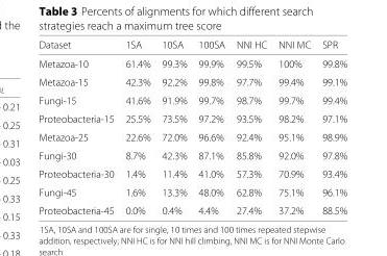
<table><thead><tr><td>Dataset</td><td>1SA</td><td>10SA</td><td>100SA</td><td>NNI HC</td><td>NNI MC</td><td>SPR</td></tr></thead><tbody><tr><td>Metazoa-10</td><td>61.4%</td><td>99.3%</td><td>99.9%</td><td>99.5%</td><td>100%</td><td>99.8%</td></tr><tr><td>Metazoa-15</td><td>42.3%</td><td>92.2%</td><td>99.8%</td><td>97.7%</td><td>99.4%</td><td>99.1%</td></tr><tr><td>Fungi-15</td><td>41.6%</td><td>91.9%</td><td>99.7%</td><td>98.7%</td><td>99.7%</td><td>99.4%</td></tr><tr><td>Proteobacteria-15</td><td>25.5%</td><td>73.5%</td><td>97.2%</td><td>93.5%</td><td>98.2%</td><td>97.1%</td></tr><tr><td>Metazoa-25</td><td>22.6%</td><td>72.0%</td><td>96.6%</td><td>92.4%</td><td>95.1%</td><td>98.9%</td></tr><tr><td>Fungi-30</td><td>8.7%</td><td>42.3%</td><td>87.1%</td><td>85.8%</td><td>92.0%</td><td>97.8%</td></tr><tr><td>Proteobacteria-30</td><td>1.4%</td><td>11.4%</td><td>41.0%</td><td>57.3%</td><td>70.9%</td><td>93.4%</td></tr><tr><td>Fungi-45</td><td>1.6%</td><td>13.3%</td><td>48.0%</td><td>62.8%</td><td>75.1%</td><td>96.1%</td></tr><tr><td>Proteobacteria-45</td><td>0.0%</td><td>0.4%</td><td>4.4%</td><td>27.4%</td><td>37.2%</td><td>88.5%</td></tr></tbody></table>